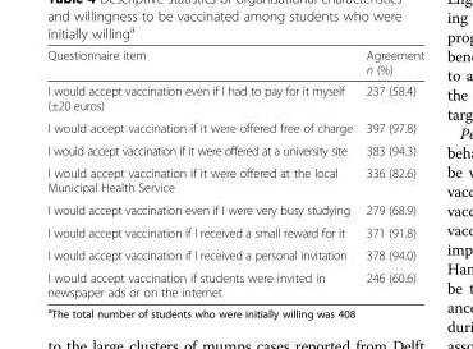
<table><thead><tr><td>Questionnaire item</td><td>Agreement n (%)</td></tr></thead><tbody><tr><td>I would accept vaccination even if I had to pay for it myself (±20 euros)</td><td>237 (58.4)</td></tr><tr><td>I would accept vaccination if it were offered free of charge</td><td>397 (97.8)</td></tr><tr><td>I would accept vaccination if it were offered at a university site</td><td>383 (94.3)</td></tr><tr><td>I would accept vaccination if it were offered at the local Municipal Health Service</td><td>336 (82.6)</td></tr><tr><td>I would accept vaccination even if I were very busy studying</td><td>279 (68.9)</td></tr><tr><td>I would accept vaccination if I received a small reward for it</td><td>371 (91.8)</td></tr><tr><td>I would accept vaccination if I received a personal invitation</td><td>378 (94.0)</td></tr><tr><td>I would accept vaccination if students were invited in newspaper ads or on the internet</td><td>246 (60.6)</td></tr></tbody></table>